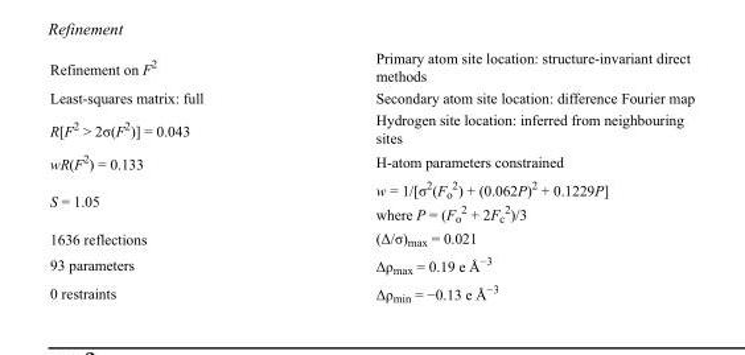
<table><tbody><tr><td>Refinement on F<sup>2</sup></td><td>Primary atom site location: structure-invariant direct methods</td></tr><tr><td>Least-squares matrix: full</td><td>Secondary atom site location: difference Fourier map</td></tr><tr><td>R[F<sup>2</sup> &gt; 2σ(F<sup>2</sup>)] = 0.043</td><td>Hydrogen site location: inferred from neighbouring sites</td></tr><tr><td>wR(F<sup>2</sup>) = 0.133</td><td>H-atom parameters constrained</td></tr><tr><td>S = 1.05</td><td>w = 1/[σ<sup>2</sup>(F<sub>o</sub> <sup>2</sup>) + (0.062P)<sup>2</sup> + 0.1229P] where P = (F<sub>o</sub> <sup>2</sup> + 2F<sub>c</sub> <sup>2</sup>)/3</td></tr><tr><td>1636 reflections</td><td>(Δ/σ)<sub>max</sub> = 0.021</td></tr><tr><td>93 parameters</td><td>Δρ<sub>max</sub> = 0.19 e Å<sup>−3</sup></td></tr><tr><td>0 restraints</td><td>Δρ<sub>min</sub> = −0.13 e Å<sup>−3</sup></td></tr></tbody></table>